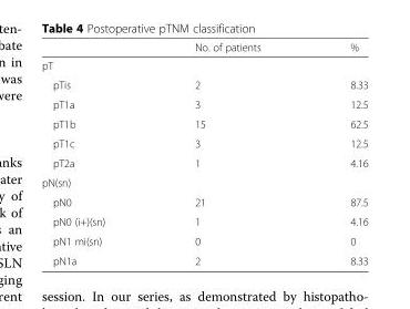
<table><thead><tr><td></td><td>No. of patients</td><td>%</td></tr></thead><tbody><tr><td colspan="3">pT</td></tr><tr><td>pTis</td><td>2</td><td>8.33</td></tr><tr><td>pT1a</td><td>3</td><td>12.5</td></tr><tr><td>pT1b</td><td>15</td><td>62.5</td></tr><tr><td>pT1c</td><td>3</td><td>12.5</td></tr><tr><td>pT2a</td><td>1</td><td>4.16</td></tr><tr><td colspan="3">pN(sn)</td></tr><tr><td>pN0</td><td>21</td><td>87.5</td></tr><tr><td>pN0 (i+)(sn)</td><td>1</td><td>4.16</td></tr><tr><td>pN1 mi(sn)</td><td>0</td><td>0</td></tr><tr><td>pN1a</td><td>2</td><td>8.33</td></tr></tbody></table>